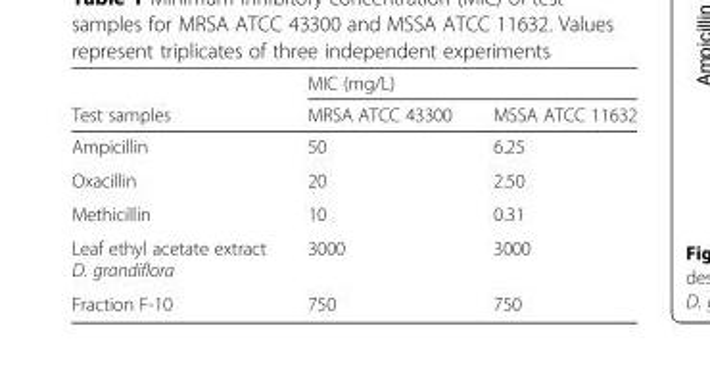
<table><thead><tr><td rowspan="2">Test samples</td><td colspan="2">MIC (mg/L)</td></tr><tr><td>MRSA ATCC 43300</td><td>MSSA ATCC 11632</td></tr></thead><tbody><tr><td>Ampicillin</td><td>50</td><td>6.25</td></tr><tr><td>Oxacillin</td><td>20</td><td>2.50</td></tr><tr><td>Methicillin</td><td>10</td><td>0.31</td></tr><tr><td>Leaf ethyl acetate extract D. grandiflora</td><td>3000</td><td>3000</td></tr><tr><td>Fraction F-10</td><td>750</td><td>750</td></tr></tbody></table>